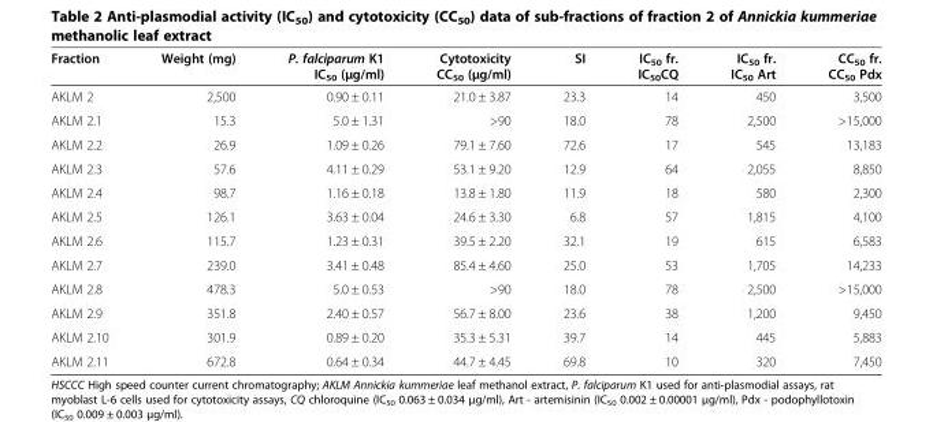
<table><thead><tr><td>Fraction</td><td>Weight (mg)</td><td>P. falciparum K1 IC<sub>50</sub> (μg/ml)</td><td>Cytotoxicity CC<sub>50</sub> (μg/ml)</td><td>SI</td><td>IC<sub>50</sub> fr. IC<sub>50</sub>CQ</td><td>IC<sub>50</sub> fr. IC<sub>50</sub> Art</td><td>CC<sub>50</sub> fr. CC<sub>50</sub> Pdx</td></tr></thead><tbody><tr><td>AKLM 2</td><td>2,500</td><td>0.90 ± 0.11</td><td>21.0 ± 3.87</td><td>23.3</td><td>14</td><td>450</td><td>3,500</td></tr><tr><td>AKLM 2.1</td><td>15.3</td><td>5.0 ± 1.31</td><td>&gt;90</td><td>18.0</td><td>78</td><td>2,500</td><td>&gt;15,000</td></tr><tr><td>AKLM 2.2</td><td>26.9</td><td>1.09 ± 0.26</td><td>79.1 ± 7.60</td><td>72.6</td><td>17</td><td>545</td><td>13,183</td></tr><tr><td>AKLM 2.3</td><td>57.6</td><td>4.11 ± 0.29</td><td>53.1 ± 9.20</td><td>12.9</td><td>64</td><td>2,055</td><td>8,850</td></tr><tr><td>AKLM 2.4</td><td>98.7</td><td>1.16 ± 0.18</td><td>13.8 ± 1.80</td><td>11.9</td><td>18</td><td>580</td><td>2,300</td></tr><tr><td>AKLM 2.5</td><td>126.1</td><td>3.63 ± 0.04</td><td>24.6 ± 3.30</td><td>6.8</td><td>57</td><td>1,815</td><td>4,100</td></tr><tr><td>AKLM 2.6</td><td>115.7</td><td>1.23 ± 0.31</td><td>39.5 ± 2.20</td><td>32.1</td><td>19</td><td>615</td><td>6,583</td></tr><tr><td>AKLM 2.7</td><td>239.0</td><td>3.41 ± 0.48</td><td>85.4 ± 4.60</td><td>25.0</td><td>53</td><td>1,705</td><td>14,233</td></tr><tr><td>AKLM 2.8</td><td>478.3</td><td>5.0 ± 0.53</td><td>&gt;90</td><td>18.0</td><td>78</td><td>2,500</td><td>&gt;15,000</td></tr><tr><td>AKLM 2.9</td><td>351.8</td><td>2.40 ± 0.57</td><td>56.7 ± 8.00</td><td>23.6</td><td>38</td><td>1,200</td><td>9,450</td></tr><tr><td>AKLM 2.10</td><td>301.9</td><td>0.89 ± 0.20</td><td>35.3 ± 5.31</td><td>39.7</td><td>14</td><td>445</td><td>5,883</td></tr><tr><td>AKLM 2.11</td><td>672.8</td><td>0.64 ± 0.34</td><td>44.7 ± 4.45</td><td>69.8</td><td>10</td><td>320</td><td>7,450</td></tr></tbody></table>